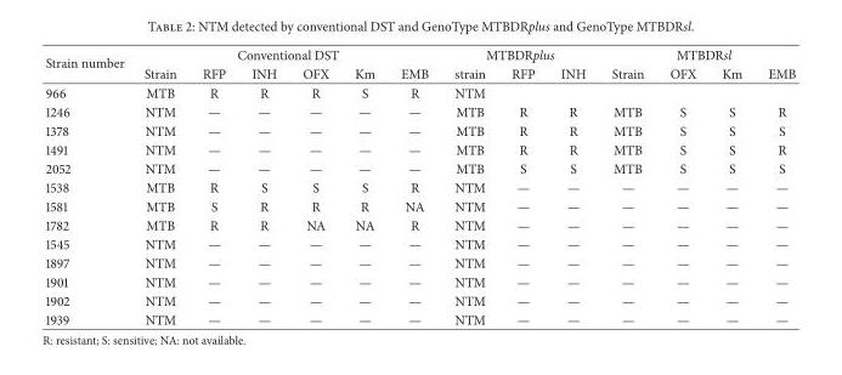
<table><thead><tr><td rowspan="2">Strain number</td><td colspan="6">Conventional DST</td><td colspan="3">MTBDRplus</td><td colspan="4">MTBDRsl</td></tr><tr><td>Strain</td><td>RFP</td><td>INH</td><td>OFX</td><td>Km</td><td>EMB</td><td>strain</td><td>RFP</td><td>INH</td><td>Strain</td><td>OFX</td><td>Km</td><td>EMB</td></tr></thead><tbody><tr><td>966</td><td>MTB</td><td>R</td><td>R</td><td>R</td><td>S</td><td>R</td><td>NTM</td><td></td><td></td><td></td><td></td><td></td><td></td></tr><tr><td>1246</td><td>NTM</td><td>—</td><td>—</td><td>—</td><td>—</td><td>—</td><td>MTB</td><td>R</td><td>R</td><td>MTB</td><td>S</td><td>S</td><td>R</td></tr><tr><td>1378</td><td>NTM</td><td>—</td><td>—</td><td>—</td><td>—</td><td>—</td><td>MTB</td><td>R</td><td>R</td><td>MTB</td><td>S</td><td>S</td><td>S</td></tr><tr><td>1491</td><td>NTM</td><td>—</td><td>—</td><td>—</td><td>—</td><td>—</td><td>MTB</td><td>R</td><td>R</td><td>MTB</td><td>S</td><td>S</td><td>R</td></tr><tr><td>2052</td><td>NTM</td><td>—</td><td>—</td><td>—</td><td>—</td><td>—</td><td>MTB</td><td>S</td><td>S</td><td>MTB</td><td>S</td><td>S</td><td>S</td></tr><tr><td>1538</td><td>MTB</td><td>R</td><td>S</td><td>S</td><td>S</td><td>R</td><td>NTM</td><td>—</td><td>—</td><td>—</td><td>—</td><td>—</td><td>—</td></tr><tr><td>1581</td><td>MTB</td><td>S</td><td>R</td><td>R</td><td>R</td><td>NA</td><td>NTM</td><td>—</td><td>—</td><td>—</td><td>—</td><td>—</td><td>—</td></tr><tr><td>1782</td><td>MTB</td><td>R</td><td>R</td><td>NA</td><td>NA</td><td>R</td><td>NTM</td><td>—</td><td>—</td><td>—</td><td>—</td><td>—</td><td>—</td></tr><tr><td>1545</td><td>NTM</td><td>—</td><td>—</td><td>—</td><td>—</td><td>—</td><td>NTM</td><td>—</td><td>—</td><td>—</td><td>—</td><td>—</td><td>—</td></tr><tr><td>1897</td><td>NTM</td><td>—</td><td>—</td><td>—</td><td>—</td><td>—</td><td>NTM</td><td>—</td><td>—</td><td>—</td><td>—</td><td>—</td><td>—</td></tr><tr><td>1901</td><td>NTM</td><td>—</td><td>—</td><td>—</td><td>—</td><td>—</td><td>NTM</td><td>—</td><td>—</td><td>—</td><td>—</td><td>—</td><td>—</td></tr><tr><td>1902</td><td>NTM</td><td>—</td><td>—</td><td>—</td><td>—</td><td>—</td><td>NTM</td><td>—</td><td>—</td><td>—</td><td>—</td><td>—</td><td>—</td></tr><tr><td>1939</td><td>NTM</td><td>—</td><td>—</td><td>—</td><td>—</td><td>—</td><td>NTM</td><td>—</td><td>—</td><td>—</td><td>—</td><td>—</td><td>—</td></tr></tbody></table>